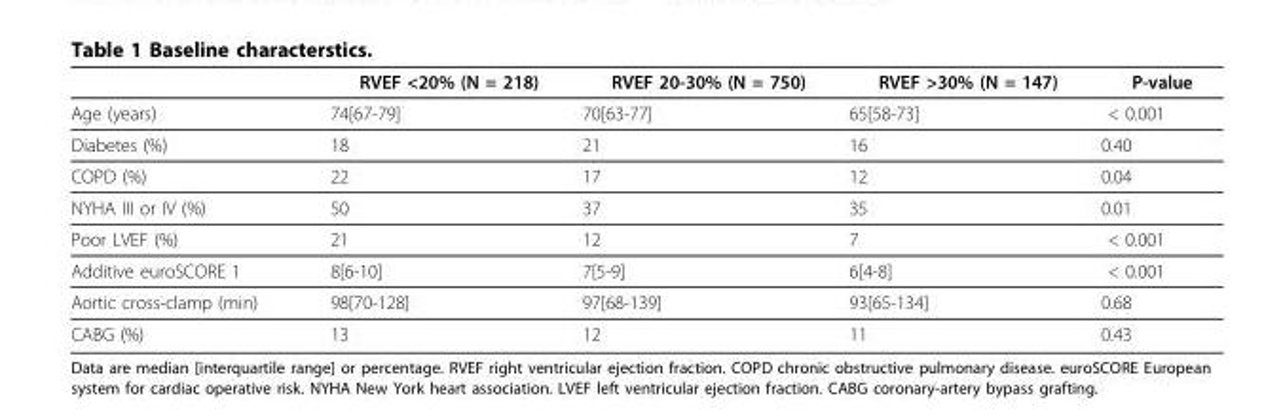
<table><thead><tr><td></td><td>RVEF &lt;20% (N = 218)</td><td>RVEF 20-30% (N = 750)</td><td>RVEF &gt;30% (N = 147)</td><td>P-value</td></tr></thead><tbody><tr><td>Age (years)</td><td>74[67-79]</td><td>70[63-77]</td><td>65[58-73]</td><td>&lt; 0.001</td></tr><tr><td>Diabetes (%)</td><td>18</td><td>21</td><td>16</td><td>0.40</td></tr><tr><td>COPD (%)</td><td>22</td><td>17</td><td>12</td><td>0.04</td></tr><tr><td>NYHA III or IV (%)</td><td>50</td><td>37</td><td>35</td><td>0.01</td></tr><tr><td>Poor LVEF (%)</td><td>21</td><td>12</td><td>7</td><td>&lt; 0.001</td></tr><tr><td>Additive euroSCORE 1</td><td>8[6-10]</td><td>7[5-9]</td><td>6[4-8]</td><td>&lt; 0.001</td></tr><tr><td>Aortic cross-clamp (min)</td><td>98[70-128]</td><td>97[68-139]</td><td>93[65-134]</td><td>0.68</td></tr><tr><td>CABG (%)</td><td>13</td><td>12</td><td>11</td><td>0.43</td></tr></tbody></table>